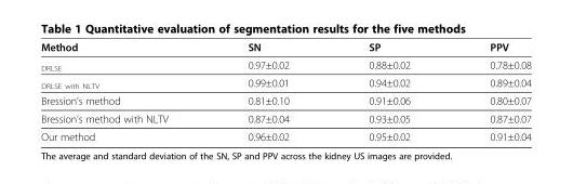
<table><thead><tr><td>Method</td><td>SN</td><td>SP</td><td>PPV</td></tr></thead><tbody><tr><td><sub>DRLSE</sub></td><td>0.97±0.02</td><td>0.88±0.02</td><td>0.78±0.08</td></tr><tr><td><sub>DRLSE with NLTV</sub></td><td>0.99±0.01</td><td>0.94±0.02</td><td>0.89±0.04</td></tr><tr><td>Bression’s method</td><td>0.81±0.10</td><td>0.91±0.06</td><td>0.80±0.07</td></tr><tr><td>Bression’s method with NLTV</td><td>0.87±0.04</td><td>0.93±0.05</td><td>0.87±0.07</td></tr><tr><td>Our method</td><td>0.96±0.02</td><td>0.95±0.02</td><td>0.91±0.04</td></tr></tbody></table>